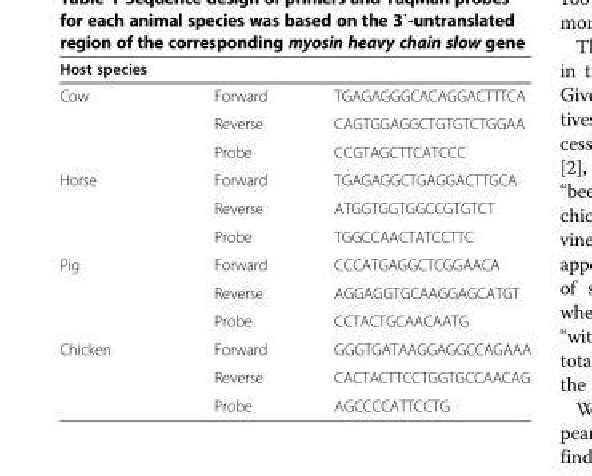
<table><thead><tr><td>Host species</td><td></td><td></td></tr></thead><tbody><tr><td rowspan="3">Cow</td><td>Forward</td><td>TGAGAGGGCACAGGACTTTCA</td></tr><tr><td>Reverse</td><td>CAGTGGAGGCTGTGTCTGGAA</td></tr><tr><td>Probe</td><td>CCGTAGCTTCATCCC</td></tr><tr><td rowspan="3">Horse</td><td>Forward</td><td>TGAGAGGCTGAGGACTTGCA</td></tr><tr><td>Reverse</td><td>ATGGTGGTGGCCGTGTCT</td></tr><tr><td>Probe</td><td>TGGCCAACTATCCTTC</td></tr><tr><td rowspan="3">Pig</td><td>Forward</td><td>CCCATGAGGCTCGGAACA</td></tr><tr><td>Reverse</td><td>AGGAGGTGCAAGGAGCATGT</td></tr><tr><td>Probe</td><td>CCTACTGCAACAATG</td></tr><tr><td rowspan="3">Chicken</td><td>Forward</td><td>GGGTGATAAGGAGGCCAGAAA</td></tr><tr><td>Reverse</td><td>CACTACTTCCTGGTGCCAACAG</td></tr><tr><td>Probe</td><td>AGCCCCATTCCTG</td></tr></tbody></table>